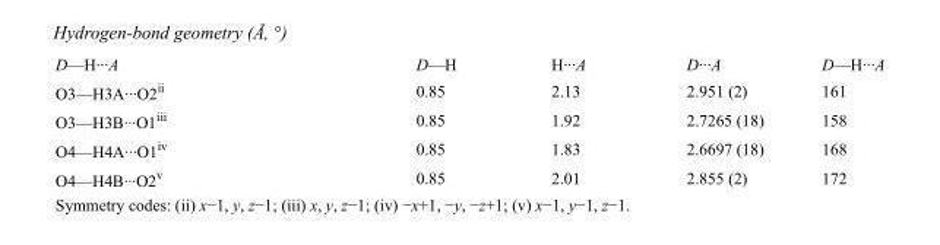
<table><tbody><tr><td>D—H···A</td><td>D—H</td><td>H···A</td><td>D···A</td><td>D—H···A</td></tr><tr><td>O3—H3A···O2<sup>ii</sup></td><td>0.85</td><td>2.13</td><td>2.951 (2)</td><td>161</td></tr><tr><td>O3—H3B···O1<sup>iii</sup></td><td>0.85</td><td>1.92</td><td>2.7265 (18)</td><td>158</td></tr><tr><td>O4—H4A···O1<sup>iv</sup></td><td>0.85</td><td>1.83</td><td>2.6697 (18)</td><td>168</td></tr><tr><td>O4—H4B···O2<sup>v</sup></td><td>0.85</td><td>2.01</td><td>2.855 (2)</td><td>172</td></tr></tbody></table>